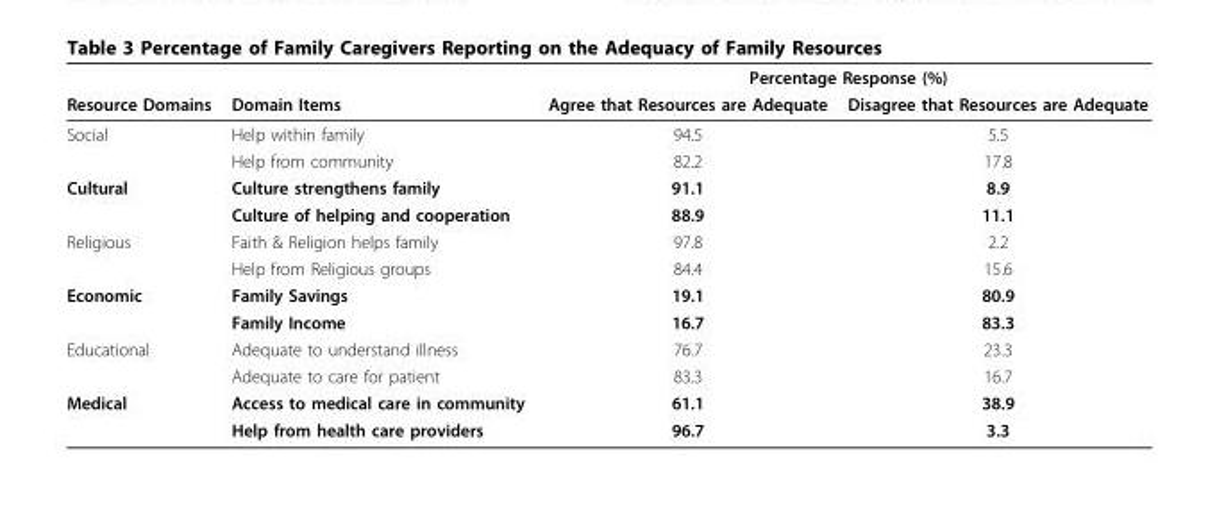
<table><thead><tr><td rowspan="2">Resource Domains</td><td rowspan="2">Domain Items</td><td colspan="2">Percentage Response (%)</td></tr><tr><td>Agree that Resources are Adequate</td><td>Disagree that Resources are Adequate</td></tr></thead><tbody><tr><td rowspan="2">Social</td><td>Help within family</td><td>94.5</td><td>5.5</td></tr><tr><td>Help from community</td><td>82.2</td><td>17.8</td></tr><tr><td rowspan="2">Cultural</td><td>Culture strengthens family</td><td>91.1</td><td>8.9</td></tr><tr><td>Culture of helping and cooperation</td><td>88.9</td><td>11.1</td></tr><tr><td rowspan="2">Religious</td><td>Faith &amp; Religion helps family</td><td>97.8</td><td>2.2</td></tr><tr><td>Help from Religious groups</td><td>84.4</td><td>15.6</td></tr><tr><td rowspan="2">Economic</td><td>Family Savings</td><td>19.1</td><td>80.9</td></tr><tr><td>Family Income</td><td>16.7</td><td>83.3</td></tr><tr><td rowspan="2">Educational</td><td>Adequate to understand illness</td><td>76.7</td><td>23.3</td></tr><tr><td>Adequate to care for patient</td><td>83.3</td><td>16.7</td></tr><tr><td rowspan="2">Medical</td><td>Access to medical care in community</td><td>61.1</td><td>38.9</td></tr><tr><td>Help from health care providers</td><td>96.7</td><td>3.3</td></tr></tbody></table>